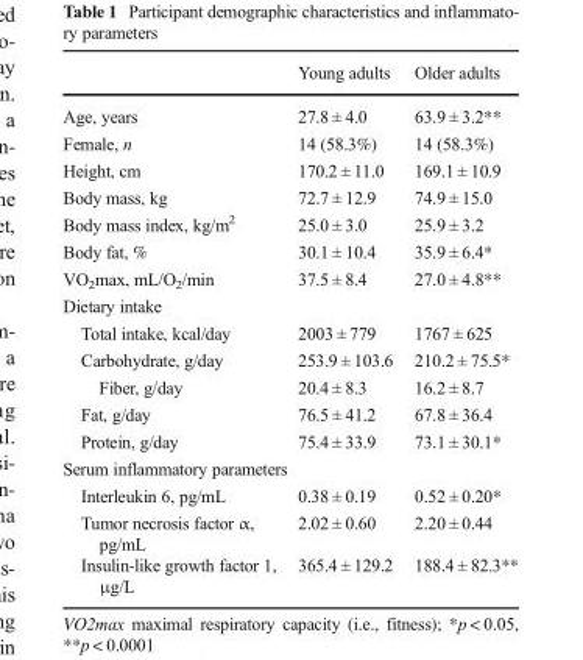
<table><thead><tr><td></td><td>Young adults</td><td>Older adults</td></tr></thead><tbody><tr><td>Age, years</td><td>27.8 ± 4.0</td><td>63.9 ± 3.2**</td></tr><tr><td>Female, n</td><td>14 (58.3%)</td><td>14 (58.3%)</td></tr><tr><td>Height, cm</td><td>170.2 ± 11.0</td><td>169.1 ± 10.9</td></tr><tr><td>Body mass, kg</td><td>72.7 ± 12.9</td><td>74.9 ± 15.0</td></tr><tr><td>Body mass index, kg/m<sup>2</sup></td><td>25.0 ± 3.0</td><td>25.9 ± 3.2</td></tr><tr><td>Body fat, %</td><td>30.1 ± 10.4</td><td>35.9 ± 6.4*</td></tr><tr><td>VO<sub>2</sub>max, mL/O<sub>2</sub>/min</td><td>37.5 ± 8.4</td><td>27.0 ± 4.8**</td></tr><tr><td colspan="3">Dietary intake</td></tr><tr><td>Total intake, kcal/day</td><td>2003 ± 779</td><td>1767 ± 625</td></tr><tr><td>Carbohydrate, g/day</td><td>253.9 ± 103.6</td><td>210.2 ± 75.5*</td></tr><tr><td>Fiber, g/day</td><td>20.4 ± 8.3</td><td>16.2 ± 8.7</td></tr><tr><td>Fat, g/day</td><td>76.5 ± 41.2</td><td>67.8 ± 36.4</td></tr><tr><td>Protein, g/day</td><td>75.4 ± 33.9</td><td>73.1 ± 30.1*</td></tr><tr><td colspan="3">Serum inflammatory parameters</td></tr><tr><td>Interleukin 6, pg/mL</td><td>0.38 ± 0.19</td><td>0.52 ± 0.20*</td></tr><tr><td>Tumor necrosis factor α, pg/mL</td><td>2.02 ± 0.60</td><td>2.20 ± 0.44</td></tr><tr><td>Insulin-like growth factor 1, μg/L</td><td>365.4 ± 129.2</td><td>188.4 ± 82.3**</td></tr></tbody></table>